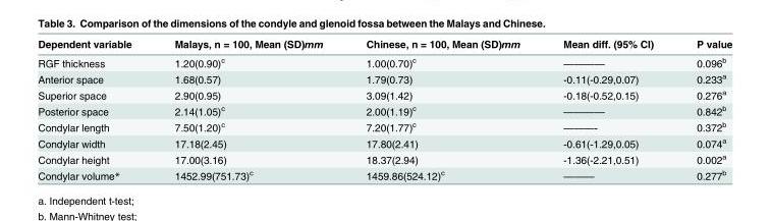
<table><thead><tr><td>Dependent variable</td><td>Malays, n = 100, Mean (SD)mm</td><td>Chinese, n = 100, Mean (SD)mm</td><td>Mean diff. (95% CI)</td><td>P value</td></tr></thead><tbody><tr><td>RGF thickness</td><td>1.20(0.90)<sup>c</sup></td><td>1.00(0.70)<sup>c</sup></td><td>————</td><td>0.096<sup>b</sup></td></tr><tr><td>Anterior space</td><td>1.68(0.57)</td><td>1.79(0.73)</td><td>-0.11(-0.29,0.07)</td><td>0.233<sup>a</sup></td></tr><tr><td>Superior space</td><td>2.90(0.95)</td><td>3.09(1.42)</td><td>-0.18(-0.52,0.15)</td><td>0.276<sup>a</sup></td></tr><tr><td>Posterior space</td><td>2.14(1.05)<sup>c</sup></td><td>2.00(1.19)<sup>c</sup></td><td>————</td><td>0.842<sup>b</sup></td></tr><tr><td>Condylar length</td><td>7.50(1.20)<sup>c</sup></td><td>7.20(1.77)<sup>c</sup></td><td>———-</td><td>0.372<sup>b</sup></td></tr><tr><td>Condylar width</td><td>17.18(2.45)</td><td>17.80(2.41)</td><td>-0.61(-1.29,0.05)</td><td>0.074<sup>a</sup></td></tr><tr><td>Condylar height</td><td>17.00(3.16)</td><td>18.37(2.94)</td><td>-1.36(-2.21,0.51)</td><td>0.002<sup>a</sup></td></tr><tr><td>Condylar volume*</td><td>1452.99(751.73)<sup>c</sup></td><td>1459.86(524.12)<sup>c</sup></td><td>———</td><td>0.277<sup>b</sup></td></tr></tbody></table>